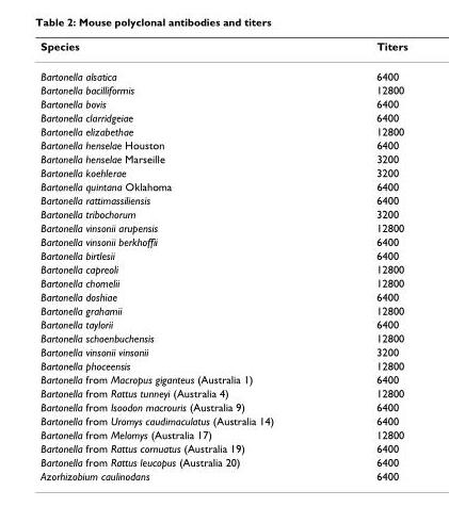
<table><thead><tr><td>Species</td><td>Titers</td></tr></thead><tbody><tr><td>Bartonella alsatica</td><td>6400</td></tr><tr><td>Bartonella bacilliformis</td><td>12800</td></tr><tr><td>Bartonella bovis</td><td>6400</td></tr><tr><td>Bartonella clarridgeiae</td><td>6400</td></tr><tr><td>Bartonella elizabethae</td><td>12800</td></tr><tr><td>Bartonella henselae Houston</td><td>6400</td></tr><tr><td>Bartonella henselae Marseille</td><td>3200</td></tr><tr><td>Bartonella koehlerae</td><td>3200</td></tr><tr><td>Bartonella quintana Oklahoma</td><td>6400</td></tr><tr><td>Bartonella rattimassiliensis</td><td>6400</td></tr><tr><td>Bartonella tribochorum</td><td>3200</td></tr><tr><td>Bartonella vinsonii arupensis</td><td>12800</td></tr><tr><td>Bartonella vinsonii berkhoffii</td><td>6400</td></tr><tr><td>Bartonella birtlesii</td><td>6400</td></tr><tr><td>Bartonella capreoli</td><td>12800</td></tr><tr><td>Bartonella chomelii</td><td>12800</td></tr><tr><td>Bartonella doshiae</td><td>6400</td></tr><tr><td>Bartonella grahamii</td><td>12800</td></tr><tr><td>Bartonella taylorii</td><td>6400</td></tr><tr><td>Bartonella schoenbuchensis</td><td>12800</td></tr><tr><td>Bartonella vinsonii vinsonii</td><td>3200</td></tr><tr><td>Bartonella phoceensis</td><td>12800</td></tr><tr><td>Bartonella from Macropus giganteus (Australia 1)</td><td>6400</td></tr><tr><td>Bartonella from Rattus tunneyi (Australia 4)</td><td>12800</td></tr><tr><td>Bartonella from Isoodon macrouris (Australia 9)</td><td>6400</td></tr><tr><td>Bartonella from Uromys caudimaculatus (Australia 14)</td><td>6400</td></tr><tr><td>Bartonella from Melomys (Australia 17)</td><td>12800</td></tr><tr><td>Bartonella from Rattus cornuatus (Australia 19)</td><td>6400</td></tr><tr><td>Bartonella from Rattus leucopus (Australia 20)</td><td>6400</td></tr><tr><td>Azorhizobium caulinodans</td><td>6400</td></tr></tbody></table>